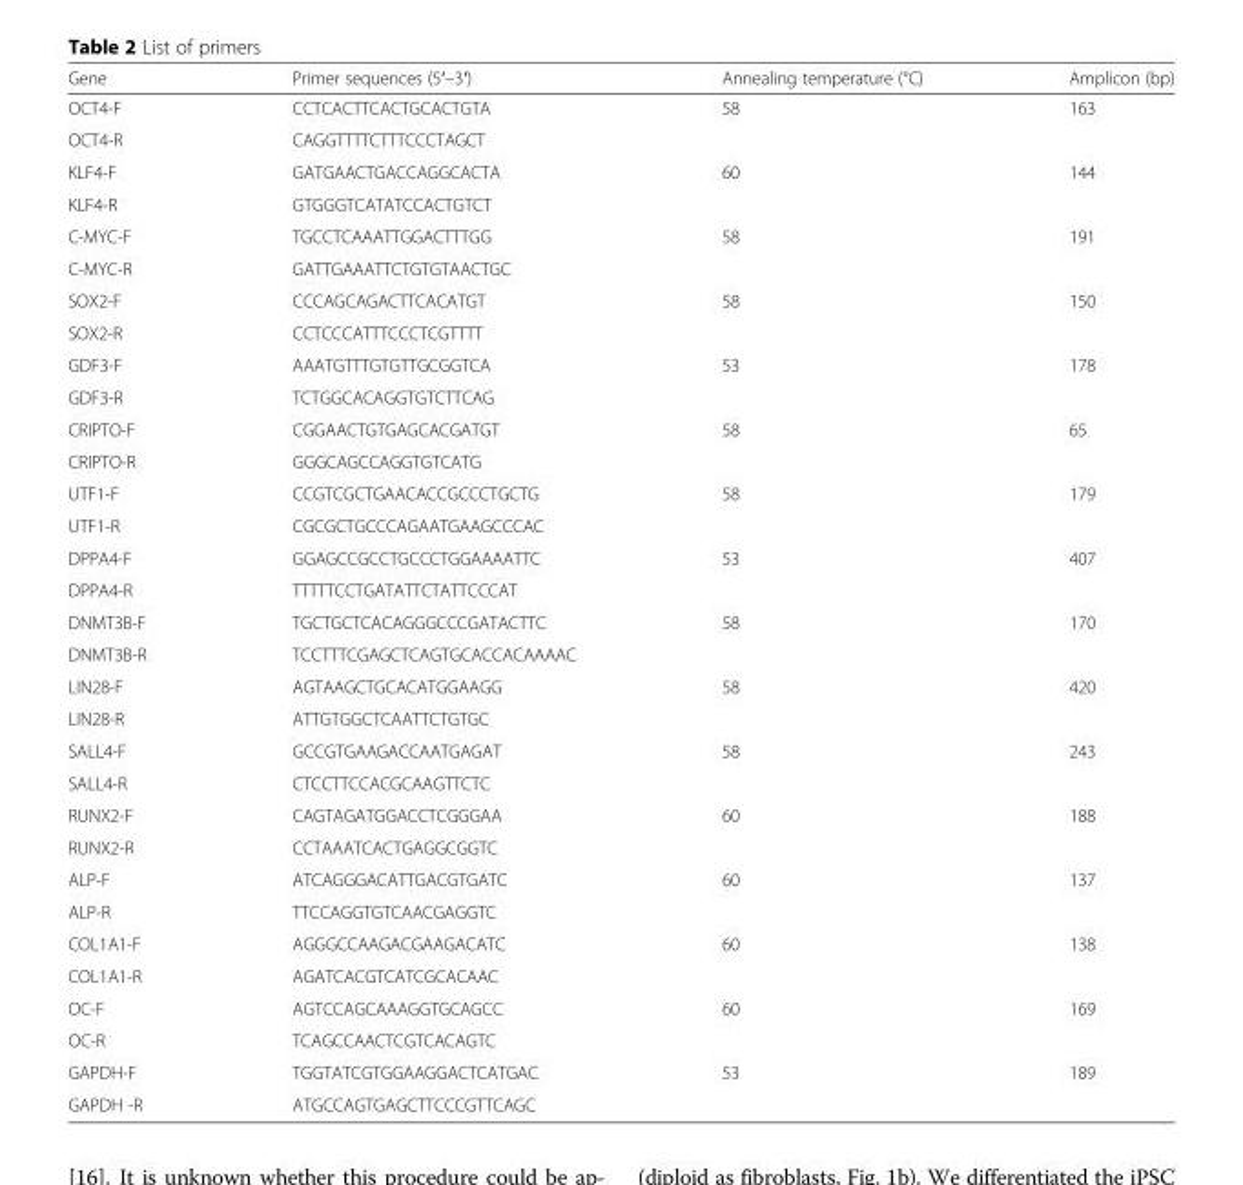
<table><thead><tr><td>Gene</td><td>Primer sequences (5′–3′)</td><td>Annealing temperature (°C)</td><td>Amplicon (bp)</td></tr></thead><tbody><tr><td>OCT4-F</td><td>CCTCACTTCACTGCACTGTA</td><td rowspan="2">58</td><td rowspan="2">163</td></tr><tr><td>OCT4-R</td><td>CAGGTTTTCTTTCCCTAGCT</td></tr><tr><td>KLF4-F</td><td>GATGAACTGACCAGGCACTA</td><td rowspan="2">60</td><td rowspan="2">144</td></tr><tr><td>KLF4-R</td><td>GTGGGTCATATCCACTGTCT</td></tr><tr><td>C-MYC-F</td><td>TGCCTCAAATTGGACTTTGG</td><td rowspan="2">58</td><td rowspan="2">191</td></tr><tr><td>C-MYC-R</td><td>GATTGAAATTCTGTGTAACTGC</td></tr><tr><td>SOX2-F</td><td>CCCAGCAGACTTCACATGT</td><td rowspan="2">58</td><td rowspan="2">150</td></tr><tr><td>SOX2-R</td><td>CCTCCCATTTCCCTCGTTTT</td></tr><tr><td>GDF3-F</td><td>AAATGTTTGTGTTGCGGTCA</td><td rowspan="2">53</td><td rowspan="2">178</td></tr><tr><td>GDF3-R</td><td>TCTGGCACAGGTGTCTTCAG</td></tr><tr><td>CRIPTO-F</td><td>CGGAACTGTGAGCACGATGT</td><td rowspan="2">58</td><td rowspan="2">65</td></tr><tr><td>CRIPTO-R</td><td>GGGCAGCCAGGTGTCATG</td></tr><tr><td>UTF1-F</td><td>CCGTCGCTGAACACCGCCCTGCTG</td><td rowspan="2">58</td><td rowspan="2">179</td></tr><tr><td>UTF1-R</td><td>CGCGCTGCCCAGAATGAAGCCCAC</td></tr><tr><td>DPPA4-F</td><td>GGAGCCGCCTGCCCTGGAAAATTC</td><td rowspan="2">53</td><td rowspan="2">407</td></tr><tr><td>DPPA4-R</td><td>TTTTTCCTGATATTCTATTCCCAT</td></tr><tr><td>DNMT3B-F</td><td>TGCTGCTCACAGGGCCCGATACTTC</td><td rowspan="2">58</td><td rowspan="2">170</td></tr><tr><td>DNMT3B-R</td><td>TCCTTTCGAGCTCAGTGCACCACAAAAC</td></tr><tr><td>LIN28-F</td><td>AGTAAGCTGCACATGGAAGG</td><td rowspan="2">58</td><td rowspan="2">420</td></tr><tr><td>LIN28-R</td><td>ATTGTGGCTCAATTCTGTGC</td></tr><tr><td>SALL4-F</td><td>GCCGTGAAGACCAATGAGAT</td><td rowspan="2">58</td><td rowspan="2">243</td></tr><tr><td>SALL4-R</td><td>CTCCTTCCACGCAAGTTCTC</td></tr><tr><td>RUNX2-F</td><td>CAGTAGATGGACCTCGGGAA</td><td rowspan="2">60</td><td rowspan="2">188</td></tr><tr><td>RUNX2-R</td><td>CCTAAATCACTGAGGCGGTC</td></tr><tr><td>ALP-F</td><td>ATCAGGGACATTGACGTGATC</td><td rowspan="2">60</td><td rowspan="2">137</td></tr><tr><td>ALP-R</td><td>TTCCAGGTGTCAACGAGGTC</td></tr><tr><td>COL1A1-F</td><td>AGGGCCAAGACGAAGACATC</td><td rowspan="2">60</td><td rowspan="2">138</td></tr><tr><td>COL1A1-R</td><td>AGATCACGTCATCGCACAAC</td></tr><tr><td>OC-F</td><td>AGTCCAGCAAAGGTGCAGCC</td><td rowspan="2">60</td><td rowspan="2">169</td></tr><tr><td>OC-R</td><td>TCAGCCAACTCGTCACAGTC</td></tr><tr><td>GAPDH-F</td><td>TGGTATCGTGGAAGGACTCATGAC</td><td rowspan="2">53</td><td rowspan="2">189</td></tr><tr><td>GAPDH -R</td><td>ATGCCAGTGAGCTTCCCGTTCAGC</td></tr></tbody></table>